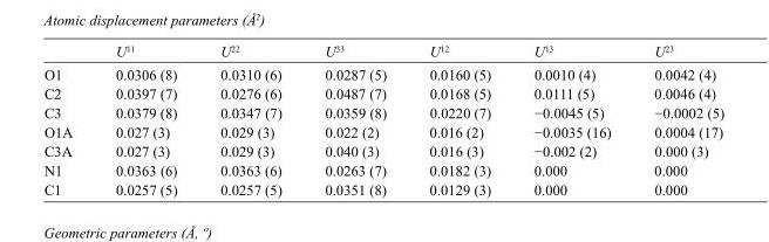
<table><thead><tr><td></td><td>U<sup>11</sup></td><td>U<sup>22</sup></td><td>U<sup>33</sup></td><td>U<sup>12</sup></td><td>U<sup>13</sup></td><td>U<sup>23</sup></td></tr></thead><tbody><tr><td>O1</td><td>0.0306 (8)</td><td>0.0310 (6)</td><td>0.0287 (5)</td><td>0.0160 (5)</td><td>0.0010 (4)</td><td>0.0042 (4)</td></tr><tr><td>C2</td><td>0.0397 (7)</td><td>0.0276 (6)</td><td>0.0487 (7)</td><td>0.0168 (5)</td><td>0.0111 (5)</td><td>0.0046 (4)</td></tr><tr><td>C3</td><td>0.0379 (8)</td><td>0.0347 (7)</td><td>0.0359 (8)</td><td>0.0220 (7)</td><td>−0.0045 (5)</td><td>−0.0002 (5)</td></tr><tr><td>O1A</td><td>0.027 (3)</td><td>0.029 (3)</td><td>0.022 (2)</td><td>0.016 (2)</td><td>−0.0035 (16)</td><td>0.0004 (17)</td></tr><tr><td>C3A</td><td>0.027 (3)</td><td>0.029 (3)</td><td>0.040 (3)</td><td>0.016 (3)</td><td>−0.002 (2)</td><td>0.000 (3)</td></tr><tr><td>N1</td><td>0.0363 (6)</td><td>0.0363 (6)</td><td>0.0263 (7)</td><td>0.0182 (3)</td><td>0.000</td><td>0.000</td></tr><tr><td>C1</td><td>0.0257 (5)</td><td>0.0257 (5)</td><td>0.0351 (8)</td><td>0.0129 (3)</td><td>0.000</td><td>0.000</td></tr></tbody></table>